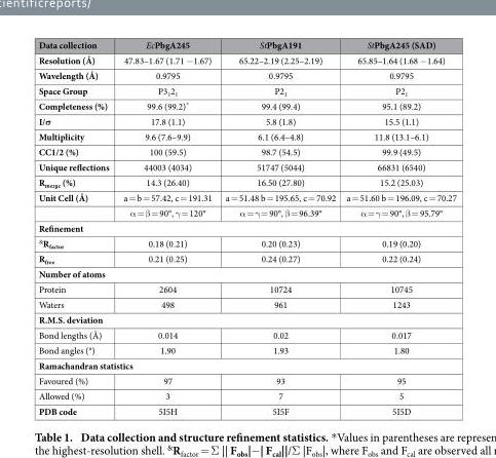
<table><thead><tr><td>Data collection</td><td>EcPbgA245</td><td>StPbgA191</td><td>StPbgA245 (SAD)</td></tr></thead><tbody><tr><td>Resolution (Å)</td><td>47.83–1.67 (1.71 − 1.67)</td><td>65.22–2.19 (2.25–2.19)</td><td>65.85–1.64 (1.68 − 1.64)</td></tr><tr><td>Wavelength (Å)</td><td>0.9795</td><td>0.9795</td><td>0.9795</td></tr><tr><td>Space Group</td><td>P3<sub>1</sub>2<sub>1</sub></td><td>P2<sub>1</sub></td><td>P2<sub>1</sub></td></tr><tr><td>Completeness (%)</td><td>99.6 (99.2)*</td><td>99.4 (99.4)</td><td>95.1 (89.2)</td></tr><tr><td>I/σ</td><td>17.8 (1.1)</td><td>5.8 (1.8)</td><td>15.5 (1.1)</td></tr><tr><td>Multiplicity</td><td>9.6 (7.6–9.9)</td><td>6.1 (6.4–4.8)</td><td>11.8 (13.1–6.1)</td></tr><tr><td>CC1/2 (%)</td><td>100 (59.5)</td><td>98.7 (54.5)</td><td>99.9 (49.5)</td></tr><tr><td>Unique reflections</td><td>44003 (4034)</td><td>51747 (5044)</td><td>66831 (6540)</td></tr><tr><td>R<sub>merge</sub> (%)</td><td>14.3 (26.40)</td><td>16.50 (27.80)</td><td>15.2 (25.03)</td></tr><tr><td rowspan="2">Unit Cell (Å)</td><td>a = b = 57.42, c = 191.31</td><td>a = 51.48 b = 195.65, c = 70.92</td><td>a = 51.60 b = 196.09, c = 70.27</td></tr><tr><td>α = β = 90°, γ = 120°</td><td>α = γ = 90°, β = 96.39°</td><td>α = γ = 90°, β = 95.79°</td></tr><tr><td colspan="4">Refinement</td></tr><tr><td>&amp;R<sub>factor</sub></td><td>0.18 (0.21)</td><td>0.20 (0.23)</td><td>0.19 (0.20)</td></tr><tr><td>R<sub>free</sub></td><td>0.21 (0.25)</td><td>0.24 (0.27)</td><td>0.22 (0.24)</td></tr><tr><td colspan="4">Number of atoms</td></tr><tr><td>Protein</td><td>2604</td><td>10724</td><td>10745</td></tr><tr><td>Waters</td><td>498</td><td>961</td><td>1243</td></tr><tr><td colspan="4">R.M.S. deviation</td></tr><tr><td>Bond lengths (Å)</td><td>0.014</td><td>0.02</td><td>0.017</td></tr><tr><td>Bond angles (°)</td><td>1.90</td><td>1.93</td><td>1.80</td></tr><tr><td colspan="4">Ramachandran statistics</td></tr><tr><td>Favoured (%)</td><td>97</td><td>93</td><td>95</td></tr><tr><td>Allowed (%)</td><td>3</td><td>7</td><td>5</td></tr><tr><td>PDB code</td><td>5I5H</td><td>5I5F</td><td>5I5D</td></tr></tbody></table>